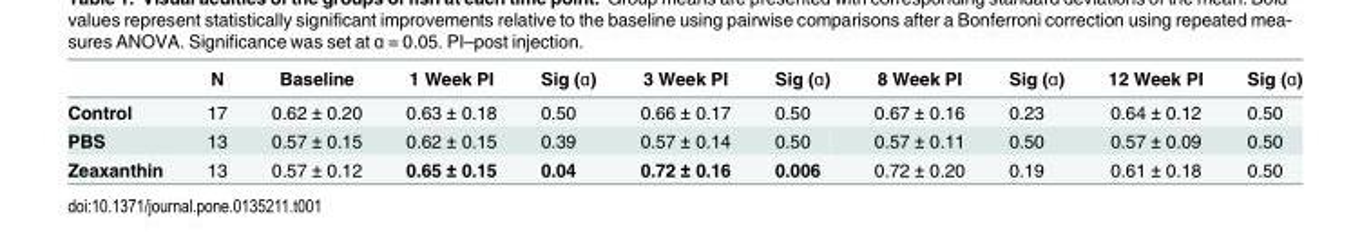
<table><thead><tr><td></td><td>N</td><td>Baseline</td><td>1 Week PI</td><td>Sig (ɑ)</td><td>3 Week PI</td><td>Sig (ɑ)</td><td>8 Week PI</td><td>Sig (ɑ)</td><td>12 Week PI</td><td>Sig (ɑ)</td></tr></thead><tbody><tr><td>Control</td><td>17</td><td>0.62 ± 0.20</td><td>0.63 ± 0.18</td><td>0.50</td><td>0.66 ± 0.17</td><td>0.50</td><td>0.67 ± 0.16</td><td>0.23</td><td>0.64 ± 0.12</td><td>0.50</td></tr><tr><td>PBS</td><td>13</td><td>0.57 ± 0.15</td><td>0.62 ± 0.15</td><td>0.39</td><td>0.57 ± 0.14</td><td>0.50</td><td>0.57 ± 0.11</td><td>0.50</td><td>0.57 ± 0.09</td><td>0.50</td></tr><tr><td>Zeaxanthin</td><td>13</td><td>0.57 ± 0.12</td><td>0.65 ± 0.15</td><td>0.04</td><td>0.72 ± 0.16</td><td>0.006</td><td>0.72 ± 0.20</td><td>0.19</td><td>0.61 ± 0.18</td><td>0.50</td></tr></tbody></table>